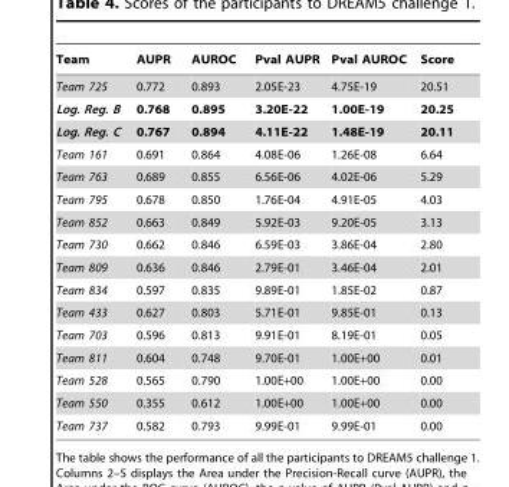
<table><thead><tr><td>Team</td><td>AUPR</td><td>AUROC</td><td>Pval AUPR</td><td>Pval AUROC</td><td>Score</td></tr></thead><tbody><tr><td>Team 725</td><td>0.772</td><td>0.893</td><td>2.05E-23</td><td>4.75E-19</td><td>20.51</td></tr><tr><td>Log. Reg. B</td><td>0.768</td><td>0.895</td><td>3.20E-22</td><td>1.00E-19</td><td>20.25</td></tr><tr><td>Log. Reg. C</td><td>0.767</td><td>0.894</td><td>4.11E-22</td><td>1.48E-19</td><td>20.11</td></tr><tr><td>Team 161</td><td>0.691</td><td>0.864</td><td>4.08E-06</td><td>1.26E-08</td><td>6.64</td></tr><tr><td>Team 763</td><td>0.689</td><td>0.855</td><td>6.56E-06</td><td>4.02E-06</td><td>5.29</td></tr><tr><td>Team 795</td><td>0.678</td><td>0.850</td><td>1.76E-04</td><td>4.91E-05</td><td>4.03</td></tr><tr><td>Team 852</td><td>0.663</td><td>0.849</td><td>5.92E-03</td><td>9.20E-05</td><td>3.13</td></tr><tr><td>Team 730</td><td>0.662</td><td>0.846</td><td>6.59E-03</td><td>3.86E-04</td><td>2.80</td></tr><tr><td>Team 809</td><td>0.636</td><td>0.846</td><td>2.79E-01</td><td>3.46E-04</td><td>2.01</td></tr><tr><td>Team 834</td><td>0.597</td><td>0.835</td><td>9.89E-01</td><td>1.85E-02</td><td>0.87</td></tr><tr><td>Team 433</td><td>0.627</td><td>0.803</td><td>5.71E-01</td><td>9.85E-01</td><td>0.13</td></tr><tr><td>Team 703</td><td>0.596</td><td>0.813</td><td>9.91E-01</td><td>8.19E-01</td><td>0.05</td></tr><tr><td>Team 811</td><td>0.604</td><td>0.748</td><td>9.70E-01</td><td>1.00E+00</td><td>0.01</td></tr><tr><td>Team 528</td><td>0.565</td><td>0.790</td><td>1.00E+00</td><td>1.00E+00</td><td>0.00</td></tr><tr><td>Team 550</td><td>0.355</td><td>0.612</td><td>1.00E+00</td><td>1.00E+00</td><td>0.00</td></tr><tr><td>Team 737</td><td>0.582</td><td>0.793</td><td>9.99E-01</td><td>9.99E-01</td><td>0.00</td></tr></tbody></table>